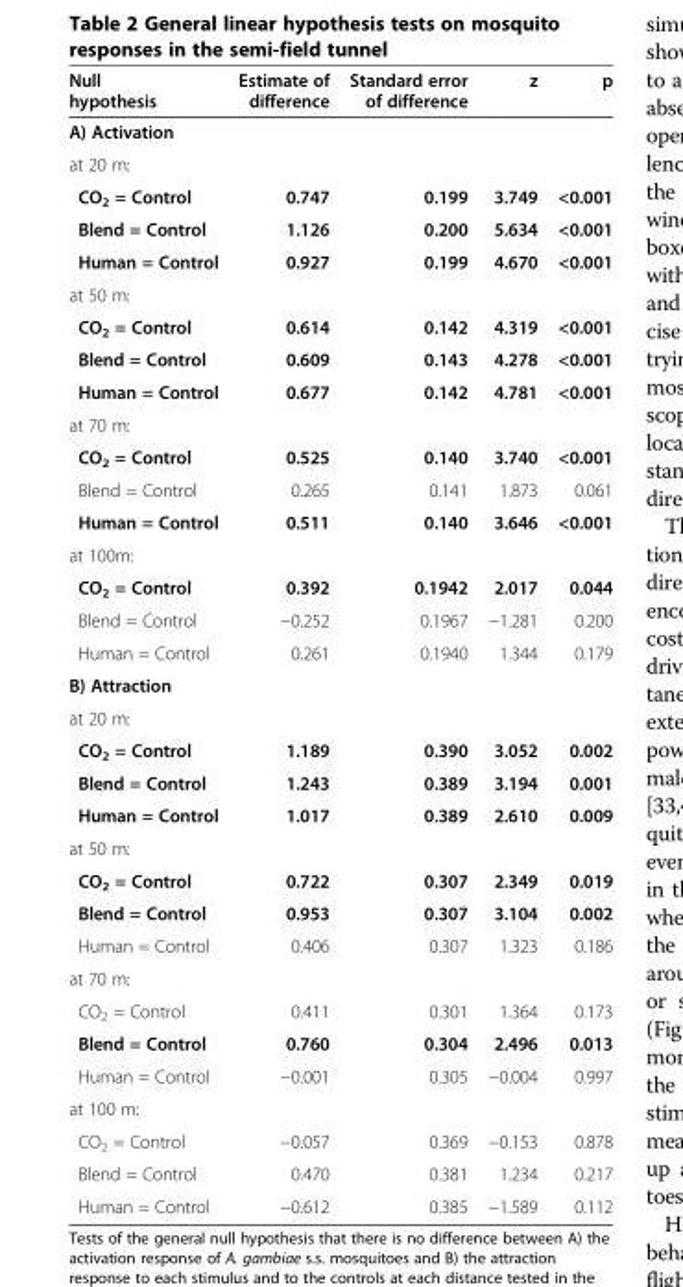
<table><thead><tr><td>Null hypothesis</td><td>Estimate of difference</td><td>Standard error of difference</td><td>z</td><td>p</td></tr></thead><tbody><tr><td>A) Activation</td><td rowspan="2"></td><td rowspan="2"></td><td rowspan="2"></td><td rowspan="2"></td></tr><tr><td>at 20 m:</td></tr><tr><td>CO<sub>2</sub> = Control</td><td>0.747</td><td>0.199</td><td>3.749</td><td>&lt;0.001</td></tr><tr><td>Blend = Control</td><td>1.126</td><td>0.200</td><td>5.634</td><td>&lt;0.001</td></tr><tr><td>Human = Control</td><td>0.927</td><td>0.199</td><td>4.670</td><td>&lt;0.001</td></tr><tr><td colspan="5">at 50 m:</td></tr><tr><td>CO<sub>2</sub> = Control</td><td>0.614</td><td>0.142</td><td>4.319</td><td>&lt;0.001</td></tr><tr><td>Blend = Control</td><td>0.609</td><td>0.143</td><td>4.278</td><td>&lt;0.001</td></tr><tr><td>Human = Control</td><td>0.677</td><td>0.142</td><td>4.781</td><td>&lt;0.001</td></tr><tr><td colspan="5">at 70 m:</td></tr><tr><td>CO<sub>2</sub> = Control</td><td>0.525</td><td>0.140</td><td>3.740</td><td>&lt;0.001</td></tr><tr><td>Blend = Control</td><td>0.265</td><td>0.141</td><td>1.873</td><td>0.061</td></tr><tr><td>Human = Control</td><td>0.511</td><td>0.140</td><td>3.646</td><td>&lt;0.001</td></tr><tr><td colspan="5">at 100m:</td></tr><tr><td>CO<sub>2</sub> = Control</td><td>0.392</td><td>0.1942</td><td>2.017</td><td>0.044</td></tr><tr><td>Blend = Control</td><td>−0.252</td><td>0.1967</td><td>−1.281</td><td>0.200</td></tr><tr><td>Human = Control</td><td>0.261</td><td>0.1940</td><td>1.344</td><td>0.179</td></tr><tr><td>B) Attraction</td><td rowspan="2"></td><td rowspan="2"></td><td rowspan="2"></td><td rowspan="2"></td></tr><tr><td>at 20 m:</td></tr><tr><td>CO<sub>2</sub> = Control</td><td>1.189</td><td>0.390</td><td>3.052</td><td>0.002</td></tr><tr><td>Blend = Control</td><td>1.243</td><td>0.389</td><td>3.194</td><td>0.001</td></tr><tr><td>Human = Control</td><td>1.017</td><td>0.389</td><td>2.610</td><td>0.009</td></tr><tr><td colspan="5">at 50 m:</td></tr><tr><td>CO<sub>2</sub> = Control</td><td>0.722</td><td>0.307</td><td>2.349</td><td>0.019</td></tr><tr><td>Blend = Control</td><td>0.953</td><td>0.307</td><td>3.104</td><td>0.002</td></tr><tr><td>Human = Control</td><td>0.406</td><td>0.307</td><td>1.323</td><td>0.186</td></tr><tr><td colspan="5">at 70 m:</td></tr><tr><td>CO<sub>2</sub> = Control</td><td>0.411</td><td>0.301</td><td>1.364</td><td>0.173</td></tr><tr><td>Blend = Control</td><td>0.760</td><td>0.304</td><td>2.496</td><td>0.013</td></tr><tr><td>Human = Control</td><td>−0.001</td><td>0.305</td><td>−0.004</td><td>0.997</td></tr><tr><td colspan="5">at 100 m:</td></tr><tr><td>CO<sub>2</sub> = Control</td><td>−0.057</td><td>0.369</td><td>−0.153</td><td>0.878</td></tr><tr><td>Blend = Control</td><td>0.470</td><td>0.381</td><td>1.234</td><td>0.217</td></tr><tr><td>Human = Control</td><td>−0.612</td><td>0.385</td><td>−1.589</td><td>0.112</td></tr></tbody></table>